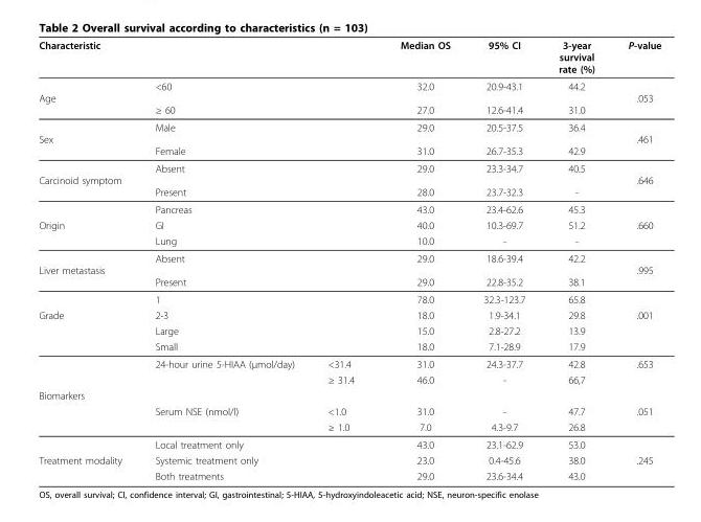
<table><thead><tr><td colspan="3">Characteristic</td><td>Median OS</td><td>95% CI</td><td>3-year survival rate (%)</td><td>P-value</td></tr></thead><tbody><tr><td>Age</td><td colspan="2">&lt;60 ≥ 60</td><td>32.0 27.0</td><td>20.9-43.1 12.6-41.4</td><td>44.2 31.0</td><td>.053</td></tr><tr><td>Sex</td><td colspan="2">Male Female</td><td>29.0 31.0</td><td>20.5-37.5 26.7-35.3</td><td>36.4 42.9</td><td>.461</td></tr><tr><td rowspan="2">Carcinoid symptom</td><td colspan="2">Absent Present</td><td>29.0 28.0</td><td>23.3-34.7 23.7-32.3</td><td>40.5 -</td><td>.646</td></tr><tr><td colspan="2">Pancreas</td><td>43.0</td><td>23.4-62.6</td><td>45.3</td><td></td></tr><tr><td rowspan="2">Origin</td><td colspan="2">GI</td><td>40.0</td><td>10.3-69.7</td><td>51.2</td><td>.660</td></tr><tr><td colspan="2">Lung</td><td>10.0</td><td>-</td><td>-</td><td></td></tr><tr><td rowspan="2">Liver metastasis</td><td colspan="2">Absent Present</td><td>29.0 29.0</td><td>18.6-39.4 22.8-35.2</td><td>42.2 38.1</td><td>.995</td></tr><tr><td colspan="2">1</td><td>78.0</td><td>32.3-123.7</td><td>65.8</td><td></td></tr><tr><td rowspan="5">Grade</td><td colspan="2">2-3</td><td>18.0</td><td>1.9-34.1</td><td>29.8</td><td>.001</td></tr><tr><td colspan="2">Large</td><td>15.0</td><td>2.8-27.2</td><td>13.9</td><td></td></tr><tr><td colspan="2">Small</td><td>18.0</td><td>7.1-28.9</td><td>17.9</td><td></td></tr><tr><td>24-hour urine 5-HIAA (μmol/day)</td><td>&lt;31.4</td><td>31.0</td><td>24.3-37.7</td><td>42.8</td><td>.653</td></tr><tr><td></td><td>≥ 31.4</td><td>46.0</td><td>-</td><td>66,7</td><td></td></tr><tr><td colspan="7">Biomarkers</td></tr><tr><td></td><td>Serum NSE (nmol/l)</td><td>&lt;1.0</td><td>31.0</td><td>-</td><td>47.7</td><td>.051</td></tr><tr><td></td><td></td><td>≥ 1.0</td><td>7.0</td><td>4.3-9.7</td><td>26.8</td><td></td></tr><tr><td></td><td colspan="2">Local treatment only</td><td>43.0</td><td>23.1-62.9</td><td>53.0</td><td></td></tr><tr><td rowspan="2">Treatment modality</td><td colspan="2">Systemic treatment only</td><td>23.0</td><td>0.4-45.6</td><td>38.0</td><td>.245</td></tr><tr><td colspan="2">Both treatments</td><td>29.0</td><td>23.6-34.4</td><td>43.0</td><td></td></tr></tbody></table>